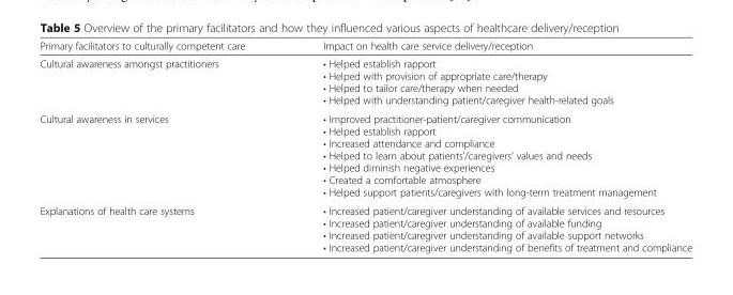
<table><thead><tr><td>Primary facilitators to culturally competent care</td><td>Impact on health care service delivery/reception</td></tr></thead><tbody><tr><td>Cultural awareness amongst practitioners</td><td>• Helped establish rapport • Helped with provision of appropriate care/therapy • Helped to tailor care/therapy when needed • Helped with understanding patient/caregiver health-related goals</td></tr><tr><td>Cultural awareness in services</td><td>• Improved practitioner-patient/caregiver communication • Helped establish rapport • Increased attendance and compliance • Helped to learn about patients’/caregivers’ values and needs • Helped diminish negative experiences • Created a comfortable atmosphere • Helped support patients/caregivers with long-term treatment management</td></tr><tr><td>Explanations of health care systems</td><td>• Increased patient/caregiver understanding of available services and resources • Increased patient/caregiver understanding of available funding • Increased patient/caregiver understanding of available support networks • Increased patient/caregiver understanding of benefits of treatment and compliance</td></tr></tbody></table>